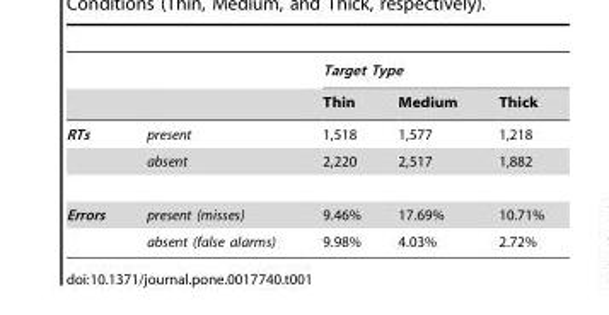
<table><thead><tr><td rowspan="2"></td><td rowspan="2"></td><td colspan="3">Target Type</td></tr><tr><td>Thin</td><td>Medium</td><td>Thick</td></tr></thead><tbody><tr><td rowspan="2">RTs</td><td>present</td><td>1,518</td><td>1,577</td><td>1,218</td></tr><tr><td>absent</td><td>2,220</td><td>2,517</td><td>1,882</td></tr><tr><td rowspan="2">Errors</td><td>present (misses)</td><td>9.46%</td><td>17.69%</td><td>10.71%</td></tr><tr><td>absent (false alarms)</td><td>9.98%</td><td>4.03%</td><td>2.72%</td></tr></tbody></table>